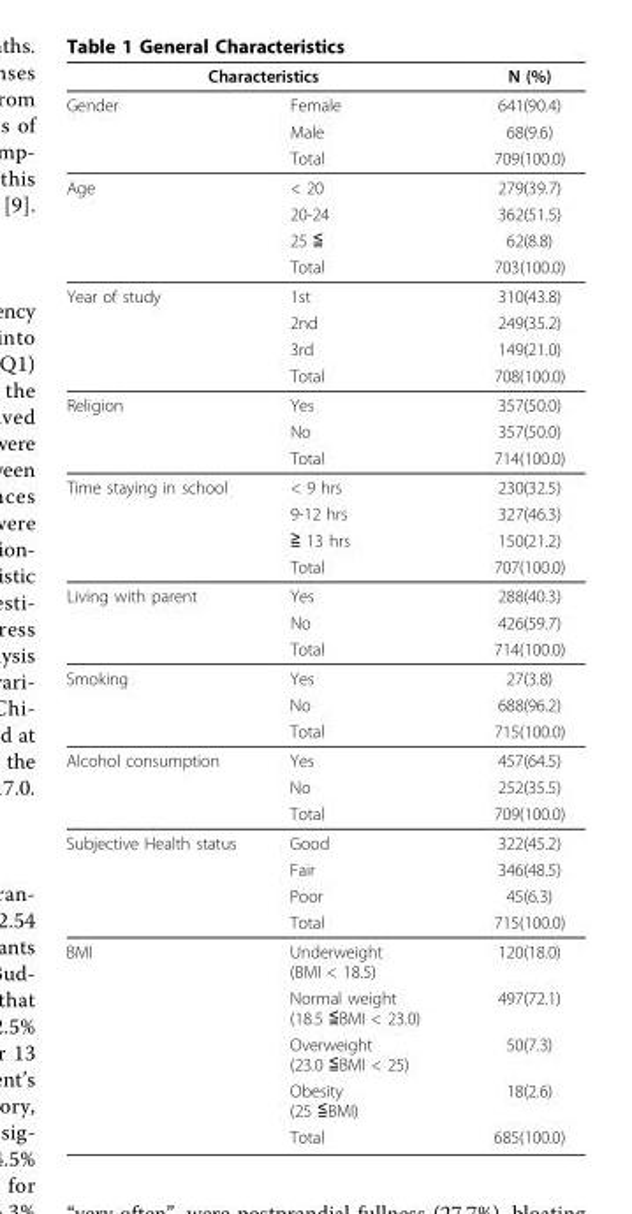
<table><tbody><tr><td colspan="2">Characteristics</td><td>N (%)</td></tr><tr><td rowspan="3">Gender</td><td>Female</td><td>641(90.4)</td></tr><tr><td>Male</td><td>68(9.6)</td></tr><tr><td>Total</td><td>709(100.0)</td></tr><tr><td rowspan="4">Age</td><td>&lt; 20</td><td>279(39.7)</td></tr><tr><td>20-24</td><td>362(51.5)</td></tr><tr><td>25 ≦</td><td>62(8.8)</td></tr><tr><td>Total</td><td>703(100.0)</td></tr><tr><td rowspan="4">Year of study</td><td>1st</td><td>310(43.8)</td></tr><tr><td>2nd</td><td>249(35.2)</td></tr><tr><td>3rd</td><td>149(21.0)</td></tr><tr><td>Total</td><td>708(100.0)</td></tr><tr><td rowspan="3">Religion</td><td>Yes</td><td>357(50.0)</td></tr><tr><td>No</td><td>357(50.0)</td></tr><tr><td>Total</td><td>714(100.0)</td></tr><tr><td rowspan="4">Time staying in school</td><td>&lt; 9 hrs</td><td>230(32.5)</td></tr><tr><td>9-12 hrs</td><td>327(46.3)</td></tr><tr><td>≧ 13 hrs</td><td>150(21.2)</td></tr><tr><td>Total</td><td>707(100.0)</td></tr><tr><td rowspan="3">Living with parent</td><td>Yes</td><td>288(40.3)</td></tr><tr><td>No</td><td>426(59.7)</td></tr><tr><td>Total</td><td>714(100.0)</td></tr><tr><td rowspan="3">Smoking</td><td>Yes</td><td>27(3.8)</td></tr><tr><td>No</td><td>688(96.2)</td></tr><tr><td>Total</td><td>715(100.0)</td></tr><tr><td rowspan="3">Alcohol consumption</td><td>Yes</td><td>457(64.5)</td></tr><tr><td>No</td><td>252(35.5)</td></tr><tr><td>Total</td><td>709(100.0)</td></tr><tr><td rowspan="4">Subjective Health status</td><td>Good</td><td>322(45.2)</td></tr><tr><td>Fair</td><td>346(48.5)</td></tr><tr><td>Poor</td><td>45(6.3)</td></tr><tr><td>Total</td><td>715(100.0)</td></tr><tr><td rowspan="5">BMI</td><td>Underweight (BMI &lt; 18.5)</td><td>120(18.0)</td></tr><tr><td>Normal weight (18.5 ≦BMI &lt; 23.0)</td><td>497(72.1)</td></tr><tr><td>Overweight (23.0 ≦BMI &lt; 25)</td><td>50(7.3)</td></tr><tr><td>Obesity (25 ≦BMI)</td><td>18(2.6)</td></tr><tr><td>Total</td><td>685(100.0)</td></tr></tbody></table>